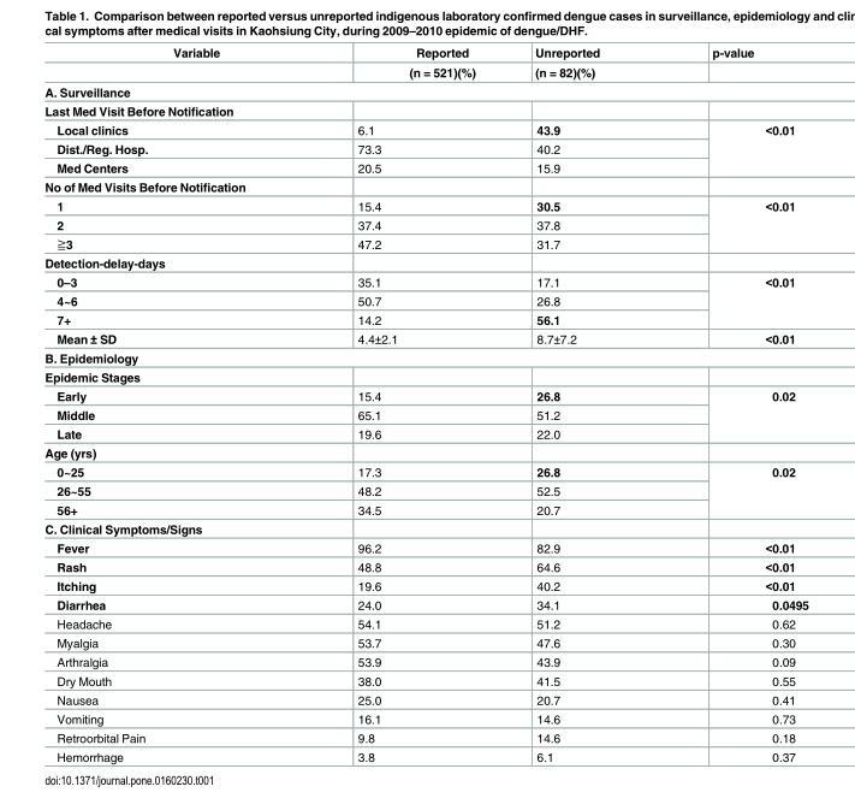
<table><thead><tr><td rowspan="2">Variable</td><td rowspan="2">Reported (n = 521)(%)</td><td rowspan="2">Unreported (n = 82)(%)</td><td rowspan="2">p-value</td></tr><tr></tr></thead><tbody><tr><td colspan="4">A. Surveillance</td></tr><tr><td colspan="4">Last Med Visit Before Notification</td></tr><tr><td>Local clinics</td><td>6.1</td><td>43.9</td><td rowspan="3">&lt;0.01</td></tr><tr><td>Dist./Reg. Hosp.</td><td>73.3</td><td>40.2</td></tr><tr><td>Med Centers</td><td>20.5</td><td>15.9</td></tr><tr><td colspan="4">No of Med Visits Before Notification</td></tr><tr><td>1</td><td>15.4</td><td>30.5</td><td rowspan="3">&lt;0.01</td></tr><tr><td>2</td><td>37.4</td><td>37.8</td></tr><tr><td>≧3</td><td>47.2</td><td>31.7</td></tr><tr><td colspan="4">Detection-delay-days</td></tr><tr><td>0–3</td><td>35.1</td><td>17.1</td><td rowspan="3">&lt;0.01</td></tr><tr><td>4~6</td><td>50.7</td><td>26.8</td></tr><tr><td>7+</td><td>14.2</td><td>56.1</td></tr><tr><td>Mean ± SD</td><td>4.4±2.1</td><td>8.7±7.2</td><td>&lt;0.01</td></tr><tr><td colspan="4">B. Epidemiology</td></tr><tr><td colspan="4">Epidemic Stages</td></tr><tr><td>Early</td><td>15.4</td><td>26.8</td><td rowspan="3">0.02</td></tr><tr><td>Middle</td><td>65.1</td><td>51.2</td></tr><tr><td>Late</td><td>19.6</td><td>22.0</td></tr><tr><td colspan="4">Age (yrs)</td></tr><tr><td>0~25</td><td>17.3</td><td>26.8</td><td rowspan="3">0.02</td></tr><tr><td>26~55</td><td>48.2</td><td>52.5</td></tr><tr><td>56+</td><td>34.5</td><td>20.7</td></tr><tr><td colspan="4">C. Clinical Symptoms/Signs</td></tr><tr><td>Fever</td><td>96.2</td><td>82.9</td><td>&lt;0.01</td></tr><tr><td>Rash</td><td>48.8</td><td>64.6</td><td>&lt;0.01</td></tr><tr><td>Itching</td><td>19.6</td><td>40.2</td><td>&lt;0.01</td></tr><tr><td>Diarrhea</td><td>24.0</td><td>34.1</td><td>0.0495</td></tr><tr><td>Headache</td><td>54.1</td><td>51.2</td><td>0.62</td></tr><tr><td>Myalgia</td><td>53.7</td><td>47.6</td><td>0.30</td></tr><tr><td>Arthralgia</td><td>53.9</td><td>43.9</td><td>0.09</td></tr><tr><td>Dry Mouth</td><td>38.0</td><td>41.5</td><td>0.55</td></tr><tr><td>Nausea</td><td>25.0</td><td>20.7</td><td>0.41</td></tr><tr><td>Vomiting</td><td>16.1</td><td>14.6</td><td>0.73</td></tr><tr><td>Retroorbital Pain</td><td>9.8</td><td>14.6</td><td>0.18</td></tr><tr><td>Hemorrhage</td><td>3.8</td><td>6.1</td><td>0.37</td></tr></tbody></table>